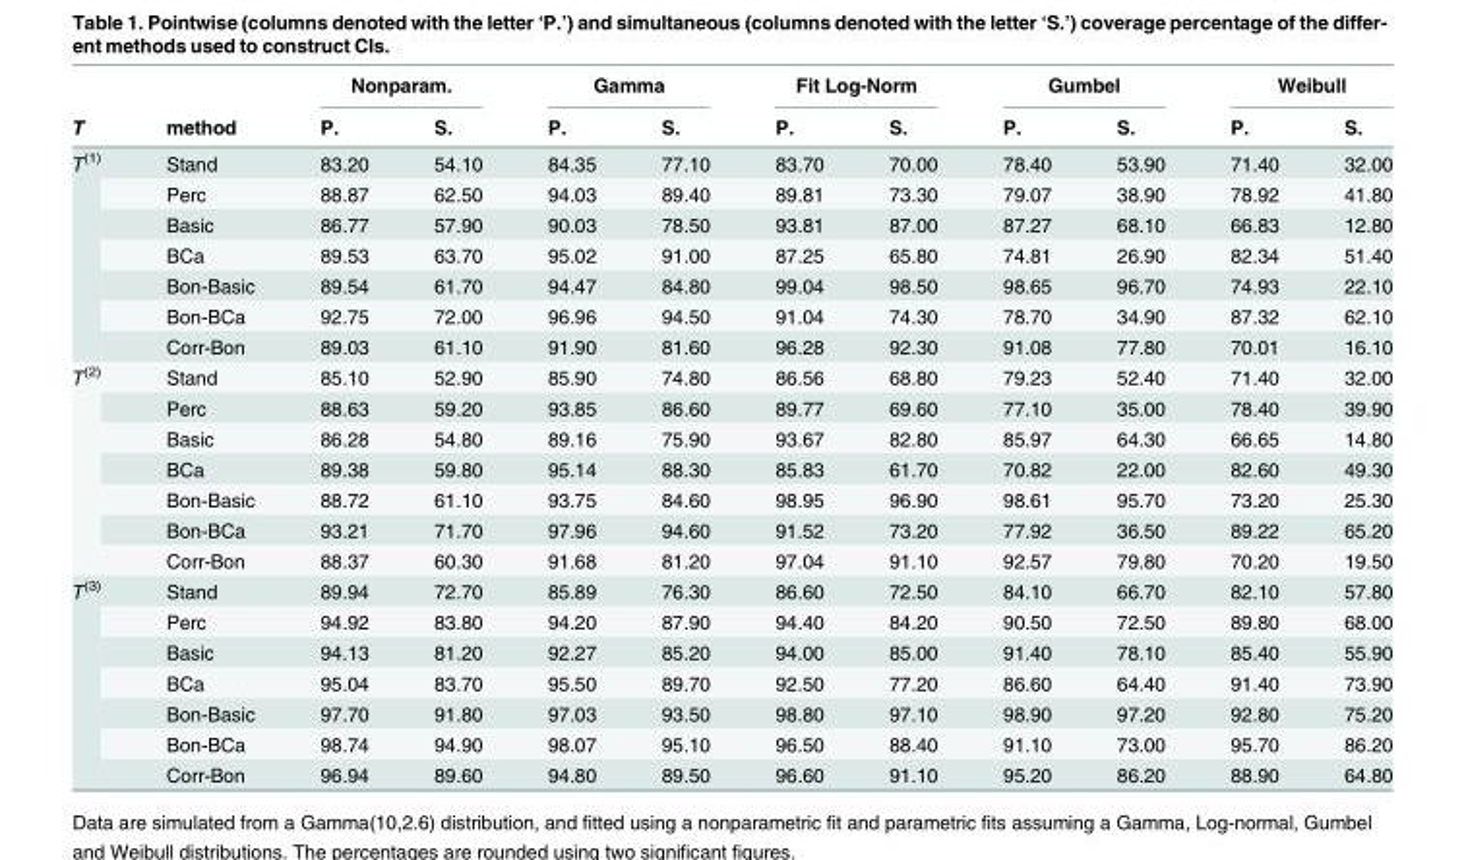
<table><thead><tr><td rowspan="2">T</td><td rowspan="2">method</td><td colspan="2">Nonparam.</td><td colspan="2">Gamma</td><td colspan="2">Fit Log-Norm</td><td colspan="2">Gumbel</td><td colspan="2">Weibull</td></tr><tr><td>P.</td><td>S.</td><td>P.</td><td>S.</td><td>P.</td><td>S.</td><td>P.</td><td>S.</td><td>P.</td><td>S.</td></tr></thead><tbody><tr><td rowspan="7">T<sup>(1)</sup></td><td>Stand</td><td>83.20</td><td>54.10</td><td>84.35</td><td>77.10</td><td>83.70</td><td>70.00</td><td>78.40</td><td>53.90</td><td>71.40</td><td>32.00</td></tr><tr><td>Perc</td><td>88.87</td><td>62.50</td><td>94.03</td><td>89.40</td><td>89.81</td><td>73.30</td><td>79.07</td><td>38.90</td><td>78.92</td><td>41.80</td></tr><tr><td>Basic</td><td>86.77</td><td>57.90</td><td>90.03</td><td>78.50</td><td>93.81</td><td>87.00</td><td>87.27</td><td>68.10</td><td>66.83</td><td>12.80</td></tr><tr><td>BCa</td><td>89.53</td><td>63.70</td><td>95.02</td><td>91.00</td><td>87.25</td><td>65.80</td><td>74.81</td><td>26.90</td><td>82.34</td><td>51.40</td></tr><tr><td>Bon-Basic</td><td>89.54</td><td>61.70</td><td>94.47</td><td>84.80</td><td>99.04</td><td>98.50</td><td>98.65</td><td>96.70</td><td>74.93</td><td>22.10</td></tr><tr><td>Bon-BCa</td><td>92.75</td><td>72.00</td><td>96.96</td><td>94.50</td><td>91.04</td><td>74.30</td><td>78.70</td><td>34.90</td><td>87.32</td><td>62.10</td></tr><tr><td>Corr-Bon</td><td>89.03</td><td>61.10</td><td>91.90</td><td>81.60</td><td>96.28</td><td>92.30</td><td>91.08</td><td>77.80</td><td>70.01</td><td>16.10</td></tr><tr><td rowspan="7">T<sup>(2)</sup></td><td>Stand</td><td>85.10</td><td>52.90</td><td>85.90</td><td>74.80</td><td>86.56</td><td>68.80</td><td>79.23</td><td>52.40</td><td>71.40</td><td>32.00</td></tr><tr><td>Perc</td><td>88.63</td><td>59.20</td><td>93.85</td><td>86.60</td><td>89.77</td><td>69.60</td><td>77.10</td><td>35.00</td><td>78.40</td><td>39.90</td></tr><tr><td>Basic</td><td>86.28</td><td>54.80</td><td>89.16</td><td>75.90</td><td>93.67</td><td>82.80</td><td>85.97</td><td>64.30</td><td>66.65</td><td>14.80</td></tr><tr><td>BCa</td><td>89.38</td><td>59.80</td><td>95.14</td><td>88.30</td><td>85.83</td><td>61.70</td><td>70.82</td><td>22.00</td><td>82.60</td><td>49.30</td></tr><tr><td>Bon-Basic</td><td>88.72</td><td>61.10</td><td>93.75</td><td>84.60</td><td>98.95</td><td>96.90</td><td>98.61</td><td>95.70</td><td>73.20</td><td>25.30</td></tr><tr><td>Bon-BCa</td><td>93.21</td><td>71.70</td><td>97.96</td><td>94.60</td><td>91.52</td><td>73.20</td><td>77.92</td><td>36.50</td><td>89.22</td><td>65.20</td></tr><tr><td>Corr-Bon</td><td>88.37</td><td>60.30</td><td>91.68</td><td>81.20</td><td>97.04</td><td>91.10</td><td>92.57</td><td>79.80</td><td>70.20</td><td>19.50</td></tr><tr><td rowspan="7">T<sup>(3)</sup></td><td>Stand</td><td>89.94</td><td>72.70</td><td>85.89</td><td>76.30</td><td>86.60</td><td>72.50</td><td>84.10</td><td>66.70</td><td>82.10</td><td>57.80</td></tr><tr><td>Perc</td><td>94.92</td><td>83.80</td><td>94.20</td><td>87.90</td><td>94.40</td><td>84.20</td><td>90.50</td><td>72.50</td><td>89.80</td><td>68.00</td></tr><tr><td>Basic</td><td>94.13</td><td>81.20</td><td>92.27</td><td>85.20</td><td>94.00</td><td>85.00</td><td>91.40</td><td>78.10</td><td>85.40</td><td>55.90</td></tr><tr><td>BCa</td><td>95.04</td><td>83.70</td><td>95.50</td><td>89.70</td><td>92.50</td><td>77.20</td><td>86.60</td><td>64.40</td><td>91.40</td><td>73.90</td></tr><tr><td>Bon-Basic</td><td>97.70</td><td>91.80</td><td>97.03</td><td>93.50</td><td>98.80</td><td>97.10</td><td>98.90</td><td>97.20</td><td>92.80</td><td>75.20</td></tr><tr><td>Bon-BCa</td><td>98.74</td><td>94.90</td><td>98.07</td><td>95.10</td><td>96.50</td><td>88.40</td><td>91.10</td><td>73.00</td><td>95.70</td><td>86.20</td></tr><tr><td>Corr-Bon</td><td>96.94</td><td>89.60</td><td>94.80</td><td>89.50</td><td>96.60</td><td>91.10</td><td>95.20</td><td>86.20</td><td>88.90</td><td>64.80</td></tr></tbody></table>